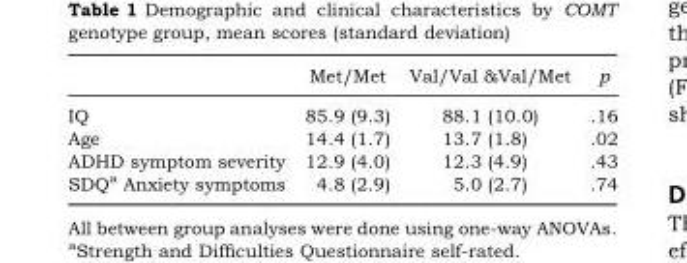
<table><thead><tr><td></td><td>Met/Met</td><td>Val/Val &amp;Val/Met</td><td>p</td></tr></thead><tbody><tr><td>IQ</td><td>85.9 (9.3)</td><td>88.1 (10.0)</td><td>.16</td></tr><tr><td>Age</td><td>14.4 (1.7)</td><td>13.7 (1.8)</td><td>.02</td></tr><tr><td>ADHD symptom severity</td><td>12.9 (4.0)</td><td>12.3 (4.9)</td><td>.43</td></tr><tr><td>SDQ<sup>a</sup> Anxiety symptoms</td><td>4.8 (2.9)</td><td>5.0 (2.7)</td><td>.74</td></tr></tbody></table>